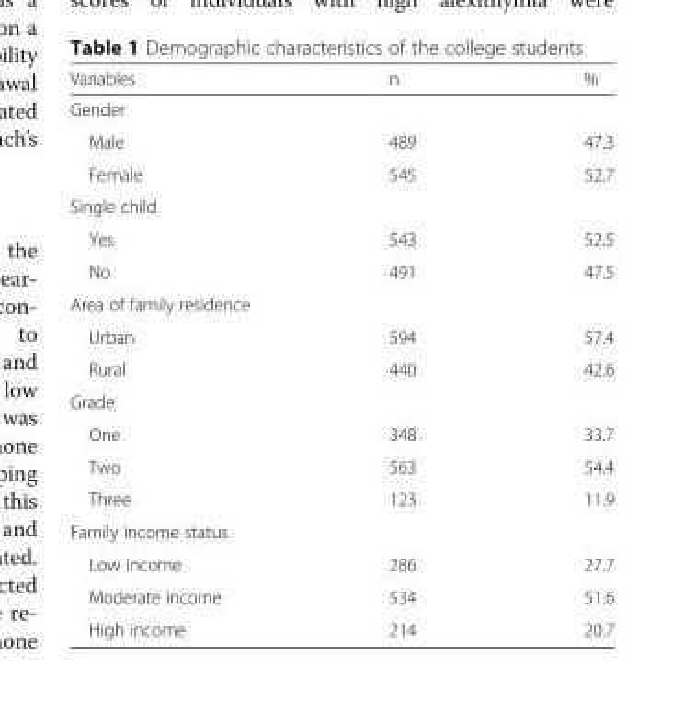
<table><thead><tr><td>Variables</td><td>n</td><td>%</td></tr></thead><tbody><tr><td colspan="3">Gender</td></tr><tr><td>Male</td><td>489</td><td>47.3</td></tr><tr><td>Female</td><td>545</td><td>52.7</td></tr><tr><td colspan="3">Single child</td></tr><tr><td>Yes</td><td>543</td><td>52.5</td></tr><tr><td>No</td><td>491</td><td>47.5</td></tr><tr><td colspan="3">Area of family residence</td></tr><tr><td>Urban</td><td>594</td><td>57.4</td></tr><tr><td>Rural</td><td>440</td><td>42.6</td></tr><tr><td colspan="3">Grade</td></tr><tr><td>One</td><td>348</td><td>33.7</td></tr><tr><td>Two</td><td>563</td><td>54.4</td></tr><tr><td>Three</td><td>123</td><td>11.9</td></tr><tr><td colspan="3">Family income status</td></tr><tr><td>Low income</td><td>286</td><td>27.7</td></tr><tr><td>Moderate income</td><td>534</td><td>51.6</td></tr><tr><td>High income</td><td>214</td><td>20.7</td></tr></tbody></table>